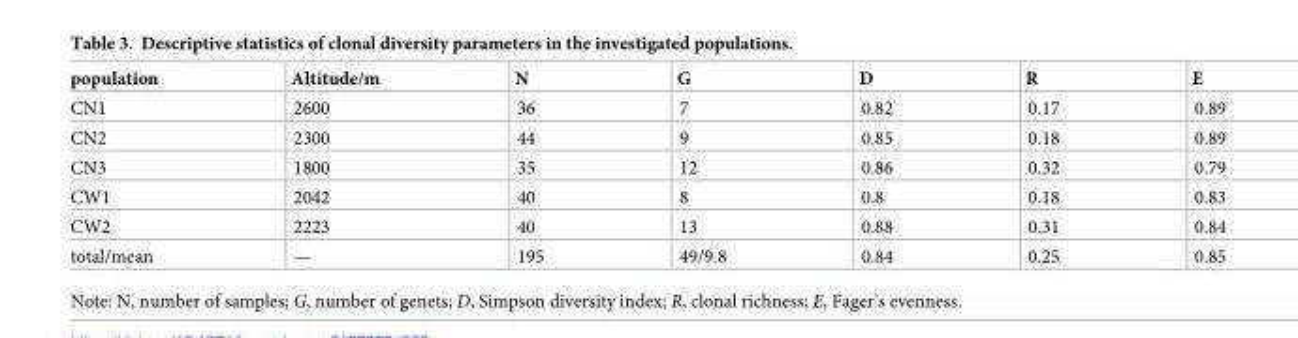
<table><thead><tr><td>population</td><td>Altitude/m</td><td>N</td><td>G</td><td>D</td><td>R</td><td>E</td></tr></thead><tbody><tr><td>CN1</td><td>2600</td><td>36</td><td>7</td><td>0.82</td><td>0.17</td><td>0.89</td></tr><tr><td>CN2</td><td>2300</td><td>44</td><td>9</td><td>0.85</td><td>0.18</td><td>0.89</td></tr><tr><td>CN3</td><td>1800</td><td>35</td><td>12</td><td>0.86</td><td>0.32</td><td>0.79</td></tr><tr><td>CW1</td><td>2042</td><td>40</td><td>8</td><td>0.8</td><td>0.18</td><td>0.83</td></tr><tr><td>CW2</td><td>2223</td><td>40</td><td>13</td><td>0.88</td><td>0.31</td><td>0.84</td></tr><tr><td>total/mean</td><td>—</td><td>195</td><td>49/9.8</td><td>0.84</td><td>0.25</td><td>0.85</td></tr></tbody></table>